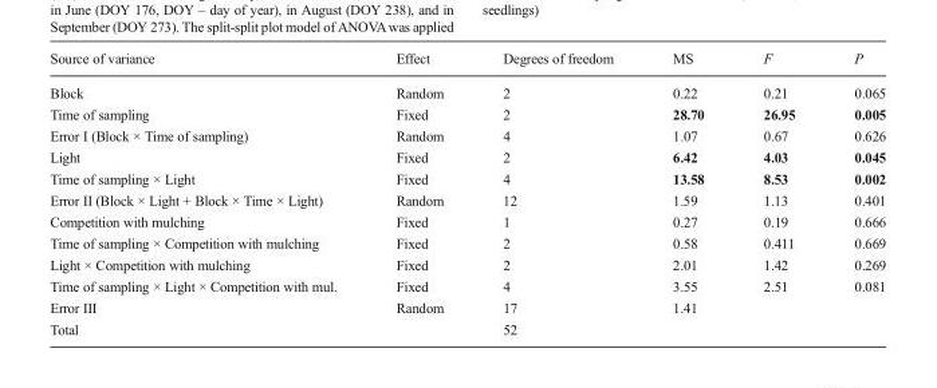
<table><thead><tr><td>Source of variance</td><td>Effect</td><td>Degrees of freedom</td><td>MS</td><td>F</td><td>P</td></tr></thead><tbody><tr><td>Block</td><td>Random</td><td>2</td><td>0.22</td><td>0.21</td><td>0.065</td></tr><tr><td>Time of sampling</td><td>Fixed</td><td>2</td><td>28.70</td><td>26.95</td><td>0.005</td></tr><tr><td>Error I (Block × Time of sampling)</td><td>Random</td><td>4</td><td>1.07</td><td>0.67</td><td>0.626</td></tr><tr><td>Light</td><td>Fixed</td><td>2</td><td>6.42</td><td>4.03</td><td>0.045</td></tr><tr><td>Time of sampling × Light</td><td>Fixed</td><td>4</td><td>13.58</td><td>8.53</td><td>0.002</td></tr><tr><td>Error II (Block × Light + Block × Time × Light)</td><td>Random</td><td>12</td><td>1.59</td><td>1.13</td><td>0.401</td></tr><tr><td>Competition with mulching</td><td>Fixed</td><td>1</td><td>0.27</td><td>0.19</td><td>0.666</td></tr><tr><td>Time of sampling × Competition with mulching</td><td>Fixed</td><td>2</td><td>0.58</td><td>0.411</td><td>0.669</td></tr><tr><td>Light × Competition with mulching</td><td>Fixed</td><td>2</td><td>2.01</td><td>1.42</td><td>0.269</td></tr><tr><td>Time of sampling × Light × Competition with mul.</td><td>Fixed</td><td>4</td><td>3.55</td><td>2.51</td><td>0.081</td></tr><tr><td>Error III</td><td>Random</td><td>17</td><td>1.41</td><td></td><td></td></tr><tr><td>Total</td><td></td><td>52</td><td></td><td></td><td></td></tr></tbody></table>